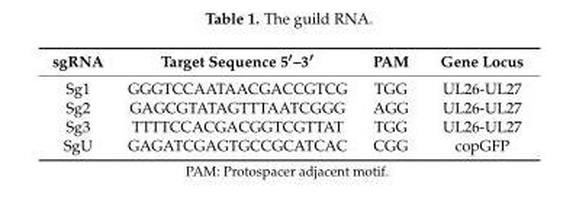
<table><thead><tr><td>sgRNA</td><td>Target Sequence 5′–3′</td><td>PAM</td><td>Gene Locus</td></tr></thead><tbody><tr><td>Sg1</td><td>GGGTCCAATAACGACCGTCG</td><td>TGG</td><td>UL26-UL27</td></tr><tr><td>Sg2</td><td>GAGCGTATAGTTTAATCGGG</td><td>AGG</td><td>UL26-UL27</td></tr><tr><td>Sg3</td><td>TTTTCCACGACGGTCGTTAT</td><td>TGG</td><td>UL26-UL27</td></tr><tr><td>SgU</td><td>GAGATCGAGTGCCGCATCAC</td><td>CGG</td><td>copGFP</td></tr></tbody></table>